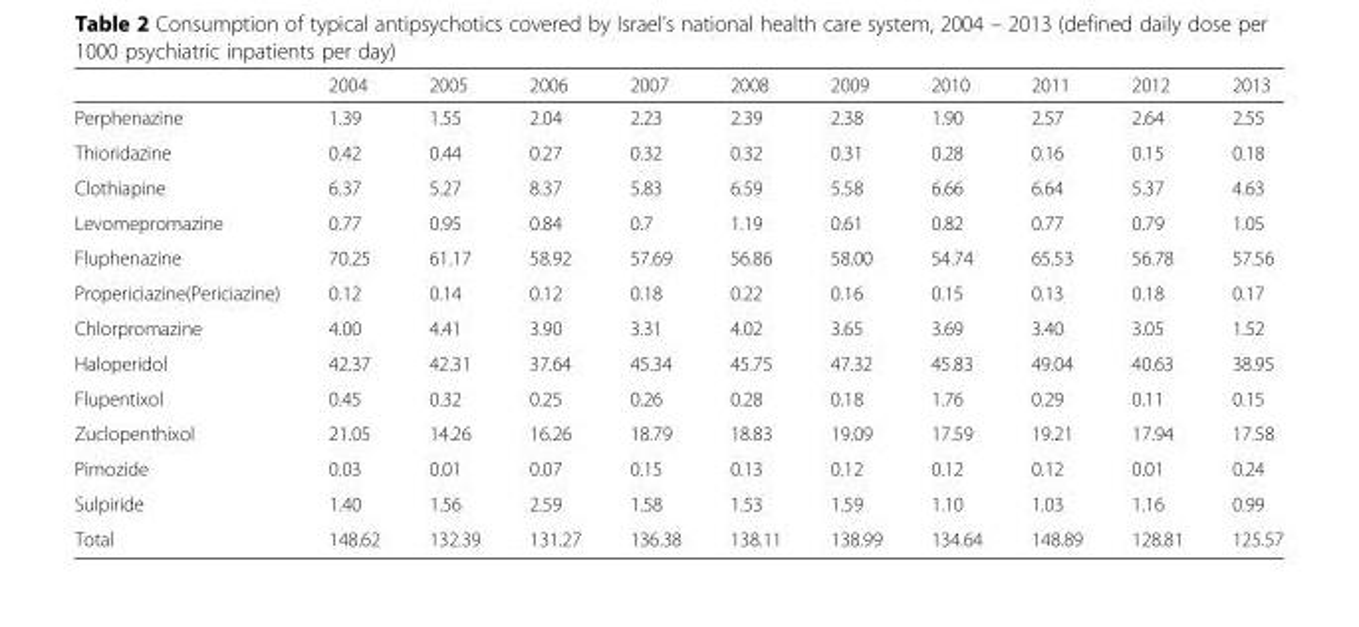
<table><thead><tr><td></td><td>2004</td><td>2005</td><td>2006</td><td>2007</td><td>2008</td><td>2009</td><td>2010</td><td>2011</td><td>2012</td><td>2013</td></tr></thead><tbody><tr><td>Perphenazine</td><td>1.39</td><td>1.55</td><td>2.04</td><td>2.23</td><td>2.39</td><td>2.38</td><td>1.90</td><td>2.57</td><td>2.64</td><td>2.55</td></tr><tr><td>Thioridazine</td><td>0.42</td><td>0.44</td><td>0.27</td><td>0.32</td><td>0.32</td><td>0.31</td><td>0.28</td><td>0.16</td><td>0.15</td><td>0.18</td></tr><tr><td>Clothiapine</td><td>6.37</td><td>5.27</td><td>8.37</td><td>5.83</td><td>6.59</td><td>5.58</td><td>6.66</td><td>6.64</td><td>5.37</td><td>4.63</td></tr><tr><td>Levomepromazine</td><td>0.77</td><td>0.95</td><td>0.84</td><td>0.7</td><td>1.19</td><td>0.61</td><td>0.82</td><td>0.77</td><td>0.79</td><td>1.05</td></tr><tr><td>Fluphenazine</td><td>70.25</td><td>61.17</td><td>58.92</td><td>57.69</td><td>56.86</td><td>58.00</td><td>54.74</td><td>65.53</td><td>56.78</td><td>57.56</td></tr><tr><td>Propericiazine(Periciazine)</td><td>0.12</td><td>0.14</td><td>0.12</td><td>0.18</td><td>0.22</td><td>0.16</td><td>0.15</td><td>0.13</td><td>0.18</td><td>0.17</td></tr><tr><td>Chlorpromazine</td><td>4.00</td><td>4.41</td><td>3.90</td><td>3.31</td><td>4.02</td><td>3.65</td><td>3.69</td><td>3.40</td><td>3.05</td><td>1.52</td></tr><tr><td>Haloperidol</td><td>42.37</td><td>42.31</td><td>37.64</td><td>45.34</td><td>45.75</td><td>47.32</td><td>45.83</td><td>49.04</td><td>40.63</td><td>38.95</td></tr><tr><td>Flupentixol</td><td>0.45</td><td>0.32</td><td>0.25</td><td>0.26</td><td>0.28</td><td>0.18</td><td>1.76</td><td>0.29</td><td>0.11</td><td>0.15</td></tr><tr><td>Zuclopenthixol</td><td>21.05</td><td>14.26</td><td>16.26</td><td>18.79</td><td>18.83</td><td>19.09</td><td>17.59</td><td>19.21</td><td>17.94</td><td>17.58</td></tr><tr><td>Pimozide</td><td>0.03</td><td>0.01</td><td>0.07</td><td>0.15</td><td>0.13</td><td>0.12</td><td>0.12</td><td>0.12</td><td>0.01</td><td>0.24</td></tr><tr><td>Sulpiride</td><td>1.40</td><td>1.56</td><td>2.59</td><td>1.58</td><td>1.53</td><td>1.59</td><td>1.10</td><td>1.03</td><td>1.16</td><td>0.99</td></tr><tr><td>Total</td><td>148.62</td><td>132.39</td><td>131.27</td><td>136.38</td><td>138.11</td><td>138.99</td><td>134.64</td><td>148.89</td><td>128.81</td><td>125.57</td></tr></tbody></table>